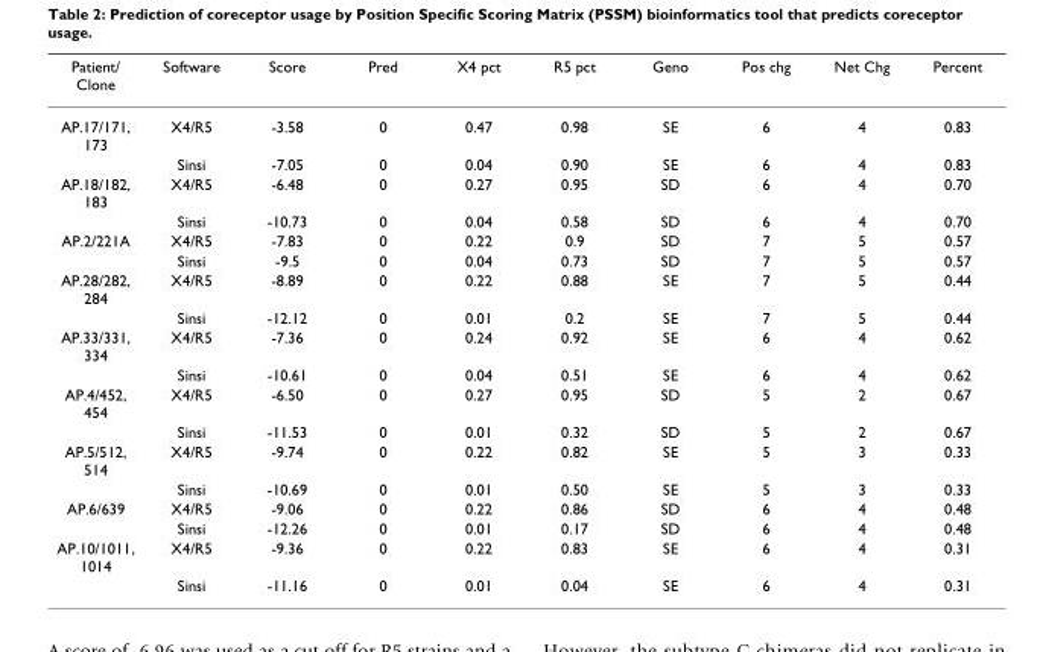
<table><thead><tr><td>Patient/ Clone</td><td>Software</td><td>Score</td><td>Pred</td><td>X4 pct</td><td>R5 pct</td><td>Geno</td><td>Pos chg</td><td>Net Chg</td><td>Percent</td></tr></thead><tbody><tr><td rowspan="2">AP.17/171, 173</td><td>X4/R5</td><td>-3.58</td><td>0</td><td>0.47</td><td>0.98</td><td>SE</td><td>6</td><td>4</td><td>0.83</td></tr><tr><td>Sinsi</td><td>-7.05</td><td>0</td><td>0.04</td><td>0.90</td><td>SE</td><td>6</td><td>4</td><td>0.83</td></tr><tr><td rowspan="2">AP.18/182, 183</td><td>X4/R5</td><td>-6.48</td><td>0</td><td>0.27</td><td>0.95</td><td>SD</td><td>6</td><td>4</td><td>0.70</td></tr><tr><td>Sinsi</td><td>-10.73</td><td>0</td><td>0.04</td><td>0.58</td><td>SD</td><td>6</td><td>4</td><td>0.70</td></tr><tr><td rowspan="2">AP.2/221A</td><td>X4/R5</td><td>-7.83</td><td>0</td><td>0.22</td><td>0.9</td><td>SD</td><td>7</td><td>5</td><td>0.57</td></tr><tr><td>Sinsi</td><td>-9.5</td><td>0</td><td>0.04</td><td>0.73</td><td>SD</td><td>7</td><td>5</td><td>0.57</td></tr><tr><td rowspan="2">AP.28/282, 284</td><td>X4/R5</td><td>-8.89</td><td>0</td><td>0.22</td><td>0.88</td><td>SE</td><td>7</td><td>5</td><td>0.44</td></tr><tr><td>Sinsi</td><td>-12.12</td><td>0</td><td>0.01</td><td>0.2</td><td>SE</td><td>7</td><td>5</td><td>0.44</td></tr><tr><td rowspan="2">AP.33/331, 334</td><td>X4/R5</td><td>-7.36</td><td>0</td><td>0.24</td><td>0.92</td><td>SE</td><td>6</td><td>4</td><td>0.62</td></tr><tr><td>Sinsi</td><td>-10.61</td><td>0</td><td>0.04</td><td>0.51</td><td>SE</td><td>6</td><td>4</td><td>0.62</td></tr><tr><td rowspan="2">AP.4/452, 454</td><td>X4/R5</td><td>-6.50</td><td>0</td><td>0.27</td><td>0.95</td><td>SD</td><td>5</td><td>2</td><td>0.67</td></tr><tr><td>Sinsi</td><td>-11.53</td><td>0</td><td>0.01</td><td>0.32</td><td>SD</td><td>5</td><td>2</td><td>0.67</td></tr><tr><td rowspan="2">AP.5/512, 514</td><td>X4/R5</td><td>-9.74</td><td>0</td><td>0.22</td><td>0.82</td><td>SE</td><td>5</td><td>3</td><td>0.33</td></tr><tr><td>Sinsi</td><td>-10.69</td><td>0</td><td>0.01</td><td>0.50</td><td>SE</td><td>5</td><td>3</td><td>0.33</td></tr><tr><td rowspan="2">AP.6/639</td><td>X4/R5</td><td>-9.06</td><td>0</td><td>0.22</td><td>0.86</td><td>SD</td><td>6</td><td>4</td><td>0.48</td></tr><tr><td>Sinsi</td><td>-12.26</td><td>0</td><td>0.01</td><td>0.17</td><td>SD</td><td>6</td><td>4</td><td>0.48</td></tr><tr><td rowspan="2">AP.10/1011, 1014</td><td>X4/R5</td><td>-9.36</td><td>0</td><td>0.22</td><td>0.83</td><td>SE</td><td>6</td><td>4</td><td>0.31</td></tr><tr><td>Sinsi</td><td>-11.16</td><td>0</td><td>0.01</td><td>0.04</td><td>SE</td><td>6</td><td>4</td><td>0.31</td></tr></tbody></table>